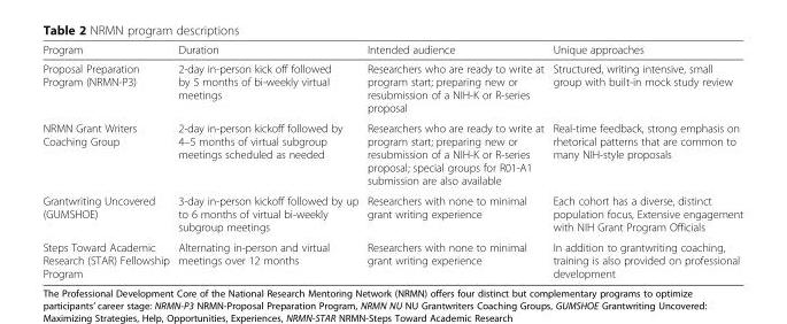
<table><thead><tr><td>Program</td><td>Duration</td><td>Intended audience</td><td>Unique approaches</td></tr></thead><tbody><tr><td>Proposal Preparation Program (NRMN-P3)</td><td>2-day in-person kick off followed by 5 months of bi-weekly virtual meetings</td><td>Researchers who are ready to write at program start; preparing new or resubmission of a NIH-K or R-series proposal</td><td>Structured, writing intensive, small group with built-in mock study review</td></tr><tr><td>NRMN Grant Writers Coaching Group</td><td>2-day in-person kickoff followed by 4–5 months of virtual subgroup meetings scheduled as needed</td><td>Researchers who are ready to write at program start; preparing new or resubmission of a NIH-K or R-series proposal; special groups for R01-A1 submission are also available</td><td>Real-time feedback, strong emphasis on rhetorical patterns that are common to many NIH-style proposals</td></tr><tr><td>Grantwriting Uncovered (GUMSHOE)</td><td>3-day in-person kickoff followed by up to 6 months of virtual bi-weekly subgroup meetings</td><td>Researchers with none to minimal grant writing experience</td><td>Each cohort has a diverse, distinct population focus, Extensive engagement with NIH Grant Program Officials</td></tr><tr><td>Steps Toward Academic Research (STAR) Fellowship Program</td><td>Alternating in-person and virtual meetings over 12 months</td><td>Researchers with none to minimal grant writing experience</td><td>In addition to grantwriting coaching, training is also provided on professional development</td></tr></tbody></table>